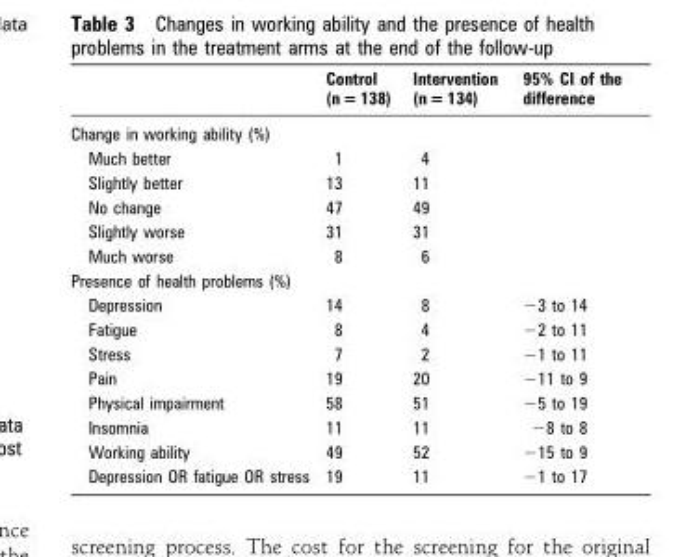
<table><thead><tr><td></td><td>Control (n = 138)</td><td>Intervention (n = 134)</td><td>95% CI of the difference</td></tr></thead><tbody><tr><td colspan="4">Change in working ability (%)</td></tr><tr><td>Much better</td><td>1</td><td>4</td><td></td></tr><tr><td>Slightly better</td><td>13</td><td>11</td><td></td></tr><tr><td>No change</td><td>47</td><td>49</td><td></td></tr><tr><td>Slightly worse</td><td>31</td><td>31</td><td></td></tr><tr><td>Much worse</td><td>8</td><td>6</td><td></td></tr><tr><td colspan="4">Presence of health problems (%)</td></tr><tr><td>Depression</td><td>14</td><td>8</td><td>−3 to 14</td></tr><tr><td>Fatigue</td><td>8</td><td>4</td><td>−2 to 11</td></tr><tr><td>Stress</td><td>7</td><td>2</td><td>−1 to 11</td></tr><tr><td>Pain</td><td>19</td><td>20</td><td>−11 to 9</td></tr><tr><td>Physical impairment</td><td>58</td><td>51</td><td>−5 to 19</td></tr><tr><td>Insomnia</td><td>11</td><td>11</td><td>−8 to 8</td></tr><tr><td>Working ability</td><td>49</td><td>52</td><td>−15 to 9</td></tr><tr><td>Depression OR fatigue OR stress</td><td>19</td><td>11</td><td>−1 to 17</td></tr></tbody></table>